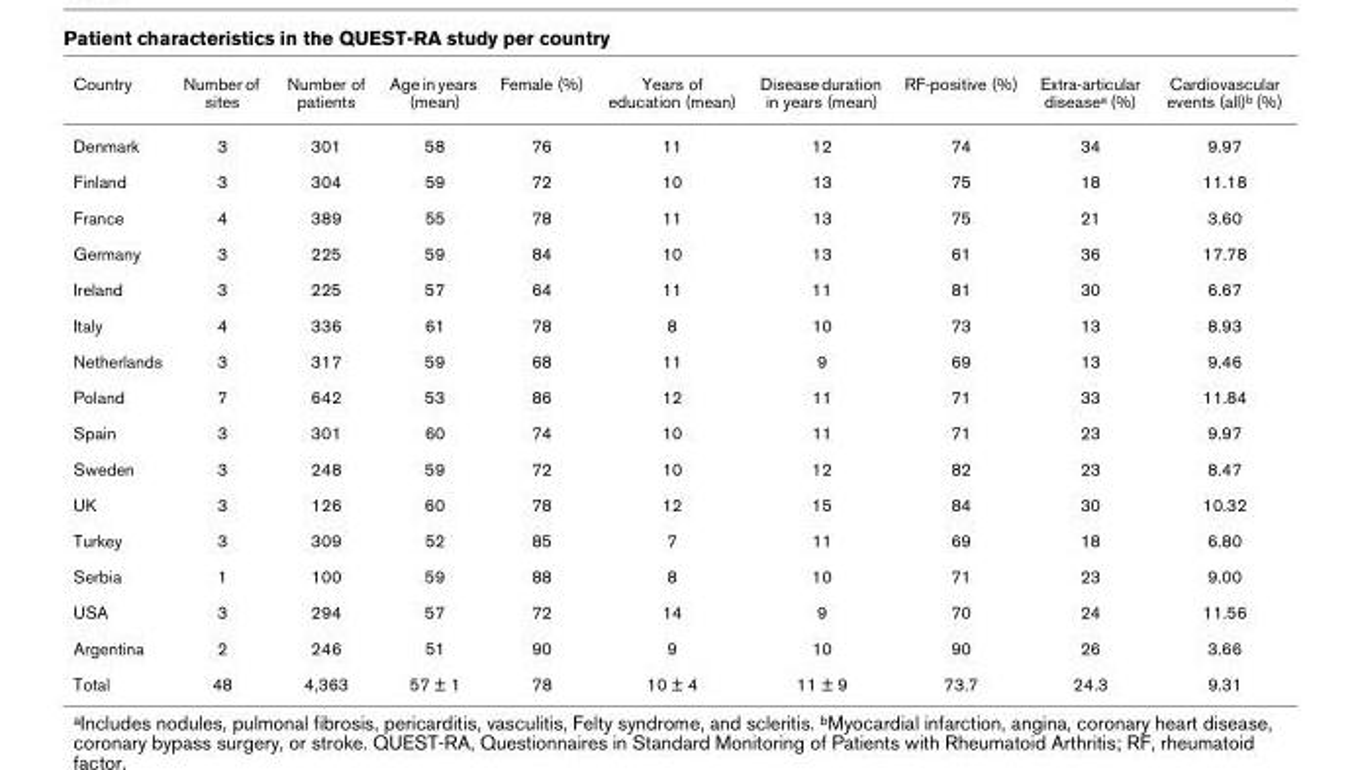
<table><thead><tr><td>Country</td><td>Number of sites</td><td>Number of patients</td><td>Age in years (mean)</td><td>Female (%)</td><td>Years of education (mean)</td><td>Disease duration in years (mean)</td><td>RF-positive (%)</td><td>Extra-articular disease<sup>a</sup> (%)</td><td>Cardiovascular events (all)<sup>b</sup> (%)</td></tr></thead><tbody><tr><td>Denmark</td><td>3</td><td>301</td><td>58</td><td>76</td><td>11</td><td>12</td><td>74</td><td>34</td><td>9.97</td></tr><tr><td>Finland</td><td>3</td><td>304</td><td>59</td><td>72</td><td>10</td><td>13</td><td>75</td><td>18</td><td>11.18</td></tr><tr><td>France</td><td>4</td><td>389</td><td>55</td><td>78</td><td>11</td><td>13</td><td>75</td><td>21</td><td>3.60</td></tr><tr><td>Germany</td><td>3</td><td>225</td><td>59</td><td>84</td><td>10</td><td>13</td><td>61</td><td>36</td><td>17.78</td></tr><tr><td>Ireland</td><td>3</td><td>225</td><td>57</td><td>64</td><td>11</td><td>11</td><td>81</td><td>30</td><td>6.67</td></tr><tr><td>Italy</td><td>4</td><td>336</td><td>61</td><td>78</td><td>8</td><td>10</td><td>73</td><td>13</td><td>8.93</td></tr><tr><td>Netherlands</td><td>3</td><td>317</td><td>59</td><td>68</td><td>11</td><td>9</td><td>69</td><td>13</td><td>9.46</td></tr><tr><td>Poland</td><td>7</td><td>642</td><td>53</td><td>86</td><td>12</td><td>11</td><td>71</td><td>33</td><td>11.84</td></tr><tr><td>Spain</td><td>3</td><td>301</td><td>60</td><td>74</td><td>10</td><td>11</td><td>71</td><td>23</td><td>9.97</td></tr><tr><td>Sweden</td><td>3</td><td>248</td><td>59</td><td>72</td><td>10</td><td>12</td><td>82</td><td>23</td><td>8.47</td></tr><tr><td>UK</td><td>3</td><td>126</td><td>60</td><td>78</td><td>12</td><td>15</td><td>84</td><td>30</td><td>10.32</td></tr><tr><td>Turkey</td><td>3</td><td>309</td><td>52</td><td>85</td><td>7</td><td>11</td><td>69</td><td>18</td><td>6.80</td></tr><tr><td>Serbia</td><td>1</td><td>100</td><td>59</td><td>88</td><td>8</td><td>10</td><td>71</td><td>23</td><td>9.00</td></tr><tr><td>USA</td><td>3</td><td>294</td><td>57</td><td>72</td><td>14</td><td>9</td><td>70</td><td>24</td><td>11.56</td></tr><tr><td>Argentina</td><td>2</td><td>246</td><td>51</td><td>90</td><td>9</td><td>10</td><td>90</td><td>26</td><td>3.66</td></tr><tr><td>Total</td><td>48</td><td>4,363</td><td>57 ± 1</td><td>78</td><td>10 ± 4</td><td>11 ± 9</td><td>73.7</td><td>24.3</td><td>9.31</td></tr></tbody></table>